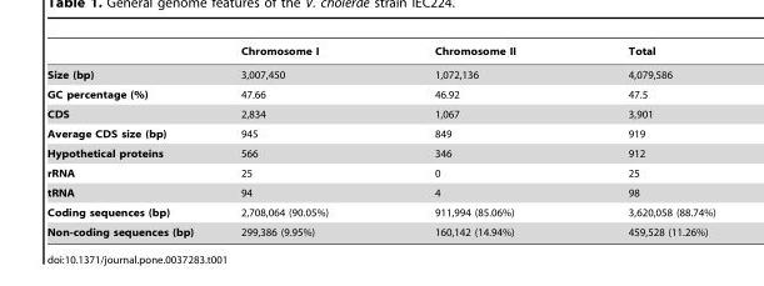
<table><thead><tr><td></td><td>Chromosome I</td><td>Chromosome II</td><td>Total</td></tr></thead><tbody><tr><td>Size (bp)</td><td>3,007,450</td><td>1,072,136</td><td>4,079,586</td></tr><tr><td>GC percentage (%)</td><td>47.66</td><td>46.92</td><td>47.5</td></tr><tr><td>CDS</td><td>2,834</td><td>1,067</td><td>3,901</td></tr><tr><td>Average CDS size (bp)</td><td>945</td><td>849</td><td>919</td></tr><tr><td>Hypothetical proteins</td><td>566</td><td>346</td><td>912</td></tr><tr><td>rRNA</td><td>25</td><td>0</td><td>25</td></tr><tr><td>tRNA</td><td>94</td><td>4</td><td>98</td></tr><tr><td>Coding sequences (bp)</td><td>2,708,064 (90.05%)</td><td>911,994 (85.06%)</td><td>3,620,058 (88.74%)</td></tr><tr><td>Non-coding sequences (bp)</td><td>299,386 (9.95%)</td><td>160,142 (14.94%)</td><td>459,528 (11.26%)</td></tr></tbody></table>